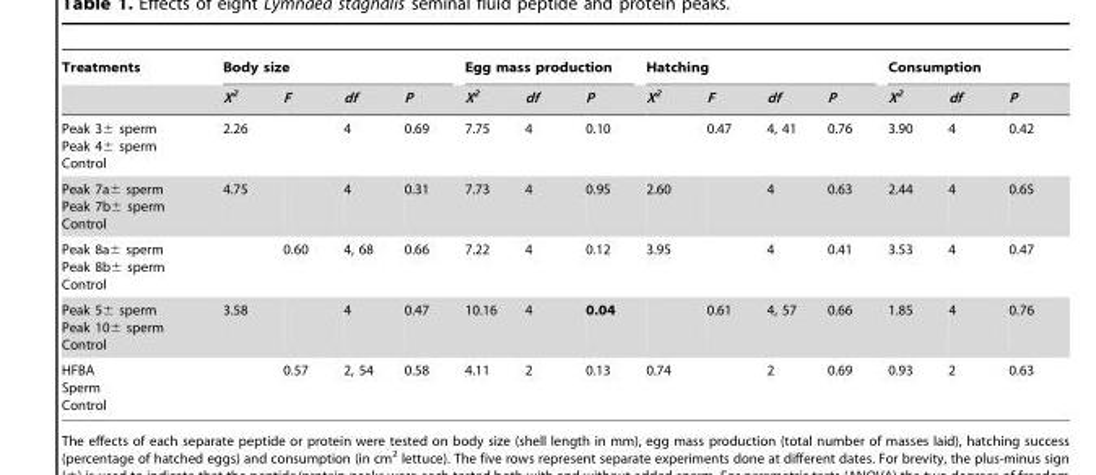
<table><thead><tr><td rowspan="2">Treatments</td><td colspan="4">Body size</td><td colspan="3">Egg mass production</td><td colspan="4">Hatching</td><td colspan="3">Consumption</td></tr><tr><td>X<sup>2</sup></td><td>F</td><td>df</td><td>P</td><td>X<sup>2</sup></td><td>df</td><td>P</td><td>X<sup>2</sup></td><td>F</td><td>df</td><td>P</td><td>X<sup>2</sup></td><td>df</td><td>P</td></tr></thead><tbody><tr><td>Peak 3± sperm Peak 4± sperm Control</td><td>2.26</td><td></td><td>4</td><td>0.69</td><td>7.75</td><td>4</td><td>0.10</td><td></td><td>0.47</td><td>4, 41</td><td>0.76</td><td>3.90</td><td>4</td><td>0.42</td></tr><tr><td>Peak 7a± sperm Peak 7b± sperm Control</td><td>4.75</td><td></td><td>4</td><td>0.31</td><td>7.73</td><td>4</td><td>0.95</td><td>2.60</td><td></td><td>4</td><td>0.63</td><td>2.44</td><td>4</td><td>0.65</td></tr><tr><td>Peak 8a± sperm Peak 8b± sperm Control</td><td></td><td>0.60</td><td>4, 68</td><td>0.66</td><td>7.22</td><td>4</td><td>0.12</td><td>3.95</td><td></td><td>4</td><td>0.41</td><td>3.53</td><td>4</td><td>0.47</td></tr><tr><td>Peak 5± sperm Peak 10± sperm Control</td><td>3.58</td><td></td><td>4</td><td>0.47</td><td>10.16</td><td>4</td><td>0.04</td><td></td><td>0.61</td><td>4, 57</td><td>0.66</td><td>1.85</td><td>4</td><td>0.76</td></tr><tr><td>HFBA Sperm Control</td><td></td><td>0.57</td><td>2, 54</td><td>0.58</td><td>4.11</td><td>2</td><td>0.13</td><td>0.74</td><td></td><td>2</td><td>0.69</td><td>0.93</td><td>2</td><td>0.63</td></tr></tbody></table>